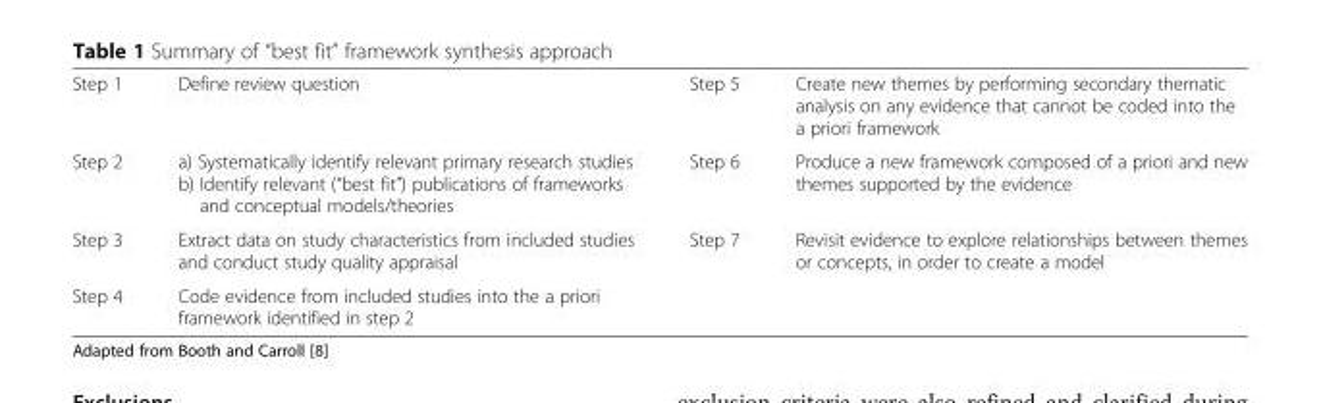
<table><tbody><tr><td>Step 1</td><td>Define review question</td><td>Step 5</td><td>Create new themes by performing secondary thematic analysis on any evidence that cannot be coded into the a priori framework</td></tr><tr><td>Step 2</td><td>a) Systematically identify relevant primary research studies b) Identify relevant (“best fit”) publications of frameworks and conceptual models/theories</td><td>Step 6</td><td>Produce a new framework composed of a priori and new themes supported by the evidence</td></tr><tr><td>Step 3</td><td>Extract data on study characteristics from included studies and conduct study quality appraisal</td><td>Step 7</td><td>Revisit evidence to explore relationships between themes or concepts, in order to create a model</td></tr><tr><td>Step 4</td><td>Code evidence from included studies into the a priori framework identified in step 2</td><td></td><td></td></tr></tbody></table>